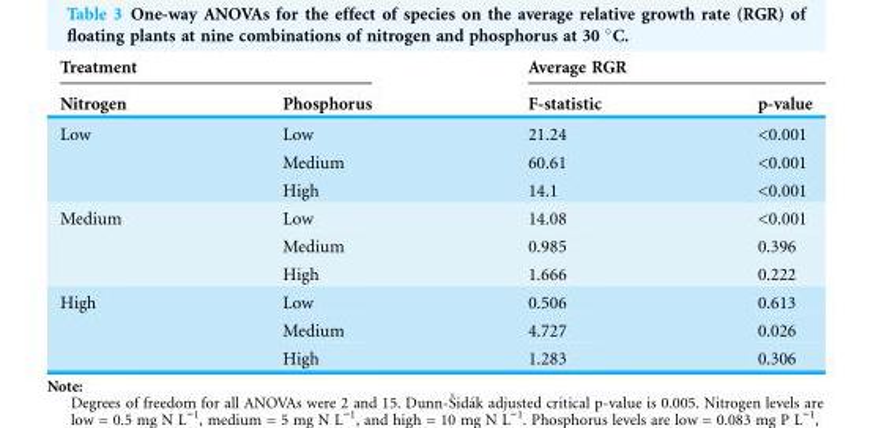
<table><thead><tr><td colspan="2">Treatment</td><td colspan="2">Average RGR</td></tr><tr><td>Nitrogen</td><td>Phosphorus</td><td>F-statistic</td><td>p-value</td></tr></thead><tbody><tr><td rowspan="3">Low</td><td>Low</td><td>21.24</td><td>&lt;0.001</td></tr><tr><td>Medium</td><td>60.61</td><td>&lt;0.001</td></tr><tr><td>High</td><td>14.1</td><td>&lt;0.001</td></tr><tr><td rowspan="3">Medium</td><td>Low</td><td>14.08</td><td>&lt;0.001</td></tr><tr><td>Medium</td><td>0.985</td><td>0.396</td></tr><tr><td>High</td><td>1.666</td><td>0.222</td></tr><tr><td rowspan="3">High</td><td>Low</td><td>0.506</td><td>0.613</td></tr><tr><td>Medium</td><td>4.727</td><td>0.026</td></tr><tr><td>High</td><td>1.283</td><td>0.306</td></tr></tbody></table>